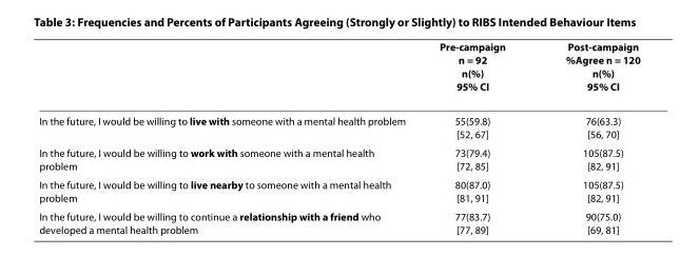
<table><thead><tr><td></td><td>Pre-campaign n = 92 n(%) 95% CI</td><td>Post-campaign %Agree n = 120 n(%) 95% CI</td></tr></thead><tbody><tr><td>In the future, I would be willing to live with someone with a mental health problem</td><td>55(59.8) [52, 67]</td><td>76(63.3) [56, 70]</td></tr><tr><td>In the future, I would be willing to work with someone with a mental health problem</td><td>73(79.4) [72, 85]</td><td>105(87.5) [82, 91]</td></tr><tr><td>In the future, I would be willing to live nearby to someone with a mental health problem</td><td>80(87.0) [81, 91]</td><td>105(87.5) [82, 91]</td></tr><tr><td>In the future, I would be willing to continue a relationship with a friend who developed a mental health problem</td><td>77(83.7) [77, 89]</td><td>90(75.0) [69, 81]</td></tr></tbody></table>